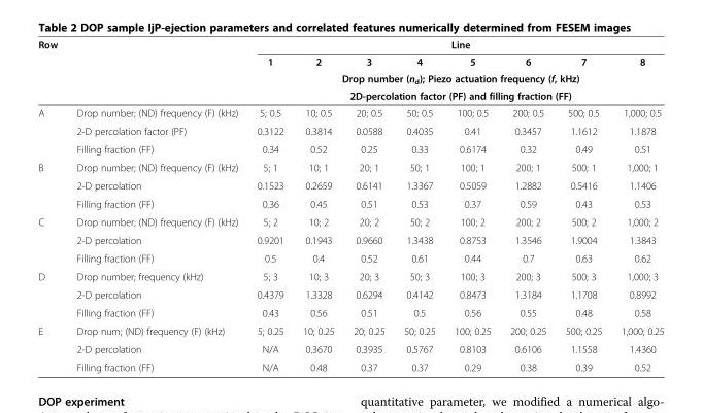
<table><thead><tr><td rowspan="4">Row</td><td rowspan="4"></td><td colspan="8">Line</td></tr><tr><td>1</td><td>2</td><td>3</td><td>4</td><td>5</td><td>6</td><td>7</td><td>8</td></tr><tr><td rowspan="2" colspan="8">Drop number (n<sub>d</sub>); Piezo actuation frequency (f, kHz) 2D-percolation factor (PF) and filling fraction (FF)</td></tr><tr></tr></thead><tbody><tr><td rowspan="3">A</td><td>Drop number; (ND) frequency (F) (kHz)</td><td>5; 0.5</td><td>10; 0.5</td><td>20; 0.5</td><td>50; 0.5</td><td>100; 0.5</td><td>200; 0.5</td><td>500; 0.5</td><td>1,000; 0.5</td></tr><tr><td>2-D percolation factor (PF)</td><td>0.3122</td><td>0.3814</td><td>0.0588</td><td>0.4035</td><td>0.41</td><td>0.3457</td><td>1.1612</td><td>1.1878</td></tr><tr><td>Filling fraction (FF)</td><td>0.34</td><td>0.52</td><td>0.25</td><td>0.33</td><td>0.6174</td><td>0.32</td><td>0.49</td><td>0.51</td></tr><tr><td rowspan="3">B</td><td>Drop number; (ND) frequency (F) (kHz)</td><td>5; 1</td><td>10; 1</td><td>20; 1</td><td>50; 1</td><td>100; 1</td><td>200; 1</td><td>500; 1</td><td>1,000; 1</td></tr><tr><td>2-D percolation</td><td>0.1523</td><td>0.2659</td><td>0.6141</td><td>1.3367</td><td>0.5059</td><td>1.2882</td><td>0.5416</td><td>1.1406</td></tr><tr><td>Filling fraction (FF)</td><td>0.36</td><td>0.45</td><td>0.51</td><td>0.53</td><td>0.37</td><td>0.59</td><td>0.43</td><td>0.53</td></tr><tr><td rowspan="3">C</td><td>Drop number; (ND) frequency (F) (kHz)</td><td>5; 2</td><td>10; 2</td><td>20; 2</td><td>50; 2</td><td>100; 2</td><td>200; 2</td><td>500; 2</td><td>1,000; 2</td></tr><tr><td>2-D percolation</td><td>0.9201</td><td>0.1943</td><td>0.9660</td><td>1.3438</td><td>0.8753</td><td>1.3546</td><td>1.9004</td><td>1.3843</td></tr><tr><td>Filling fraction (FF)</td><td>0.5</td><td>0.4</td><td>0.52</td><td>0.61</td><td>0.44</td><td>0.7</td><td>0.63</td><td>0.62</td></tr><tr><td rowspan="3">D</td><td>Drop number; frequency (kHz)</td><td>5; 3</td><td>10; 3</td><td>20; 3</td><td>50; 3</td><td>100; 3</td><td>200; 3</td><td>500; 3</td><td>1,000; 3</td></tr><tr><td>2-D percolation</td><td>0.4379</td><td>1.3328</td><td>0.6294</td><td>0.4142</td><td>0.8473</td><td>1.3184</td><td>1.1708</td><td>0.8992</td></tr><tr><td>Filling fraction (FF)</td><td>0.43</td><td>0.56</td><td>0.51</td><td>0.5</td><td>0.56</td><td>0.55</td><td>0.48</td><td>0.58</td></tr><tr><td rowspan="3">E</td><td>Drop num; (ND) frequency (F) (kHz)</td><td>5; 0.25</td><td>10; 0.25</td><td>20; 0.25</td><td>50; 0.25</td><td>100; 0.25</td><td>200; 0.25</td><td>500; 0.25</td><td>1,000; 0.25</td></tr><tr><td>2-D percolation</td><td>N/A</td><td>0.3670</td><td>0.3935</td><td>0.5767</td><td>0.8103</td><td>0.6106</td><td>1.1558</td><td>1.4360</td></tr><tr><td>Filling fraction (FF)</td><td>N/A</td><td>0.48</td><td>0.37</td><td>0.37</td><td>0.29</td><td>0.38</td><td>0.39</td><td>0.52</td></tr></tbody></table>